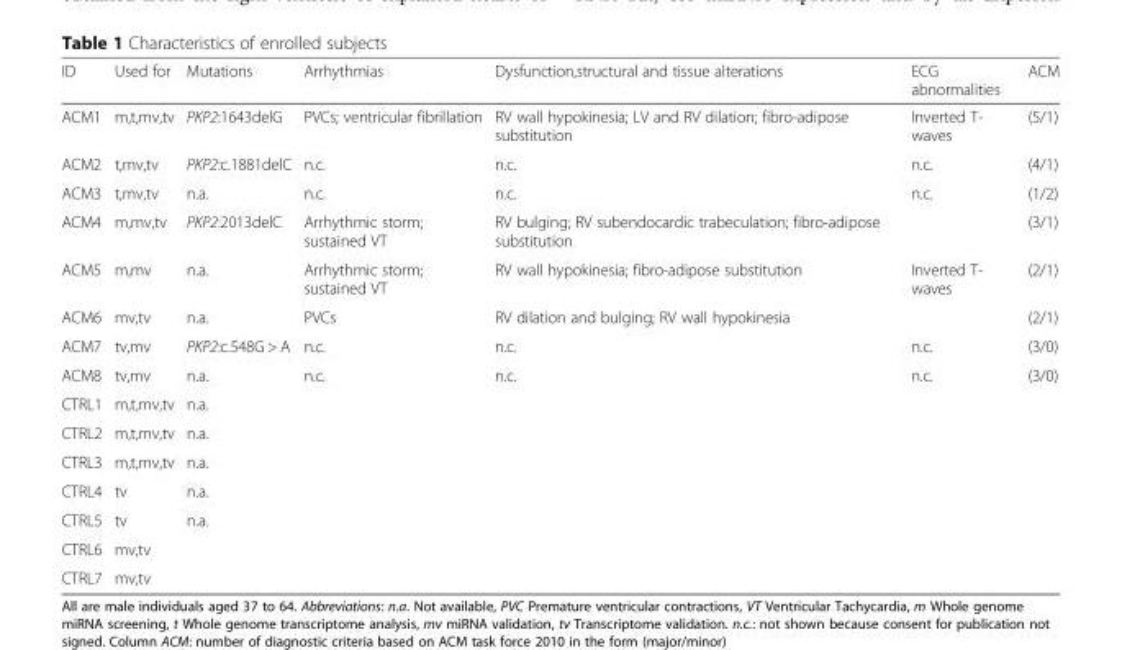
<table><thead><tr><td>ID</td><td>Used for</td><td>Mutations</td><td>Arrhythmias</td><td>Dysfunction,structural and tissue alterations</td><td>ECG abnormalities</td><td>ACM</td></tr></thead><tbody><tr><td>ACM1</td><td>m,t,mv,tv</td><td>PKP2:1643delG</td><td>PVCs; ventricular fibrillation</td><td>RV wall hypokinesia; LV and RV dilation; fibro-adipose substitution</td><td>Inverted T- waves</td><td>(5/1)</td></tr><tr><td>ACM2</td><td>t,mv,tv</td><td>PKP2:c.1881delC</td><td>n.c.</td><td>n.c.</td><td>n.c.</td><td>(4/1)</td></tr><tr><td>ACM3</td><td>t,mv,tv</td><td>n.a.</td><td>n.c.</td><td>n.c.</td><td>n.c.</td><td>(1/2)</td></tr><tr><td>ACM4</td><td>m,mv,tv</td><td>PKP2:2013delC</td><td>Arrhythmic storm; sustained VT</td><td>RV bulging; RV subendocardic trabeculation; fibro-adipose substitution</td><td></td><td>(3/1)</td></tr><tr><td>ACM5</td><td>m,mv</td><td>n.a.</td><td>Arrhythmic storm; sustained VT</td><td>RV wall hypokinesia; fibro-adipose substitution</td><td>Inverted T- waves</td><td>(2/1)</td></tr><tr><td>ACM6</td><td>mv,tv</td><td>n.a.</td><td>PVCs</td><td>RV dilation and bulging; RV wall hypokinesia</td><td></td><td>(2/1)</td></tr><tr><td>ACM7</td><td>tv,mv</td><td>PKP2:c.548G &gt; A</td><td>n.c.</td><td>n.c.</td><td>n.c.</td><td>(3/0)</td></tr><tr><td>ACM8</td><td>tv,mv</td><td>n.a.</td><td>n.c.</td><td>n.c.</td><td>n.c.</td><td>(3/0)</td></tr><tr><td>CTRL1</td><td>m,t,mv,tv</td><td>n.a.</td><td></td><td></td><td></td><td></td></tr><tr><td>CTRL2</td><td>m,t,mv,tv</td><td>n.a.</td><td></td><td></td><td></td><td></td></tr><tr><td>CTRL3</td><td>m,t,mv,tv</td><td>n.a.</td><td></td><td></td><td></td><td></td></tr><tr><td>CTRL4</td><td>tv</td><td>n.a.</td><td></td><td></td><td></td><td></td></tr><tr><td>CTRL5</td><td>tv</td><td>n.a.</td><td></td><td></td><td></td><td></td></tr><tr><td>CTRL6</td><td>mv,tv</td><td></td><td></td><td></td><td></td><td></td></tr><tr><td>CTRL7</td><td>mv,tv</td><td></td><td></td><td></td><td></td><td></td></tr></tbody></table>